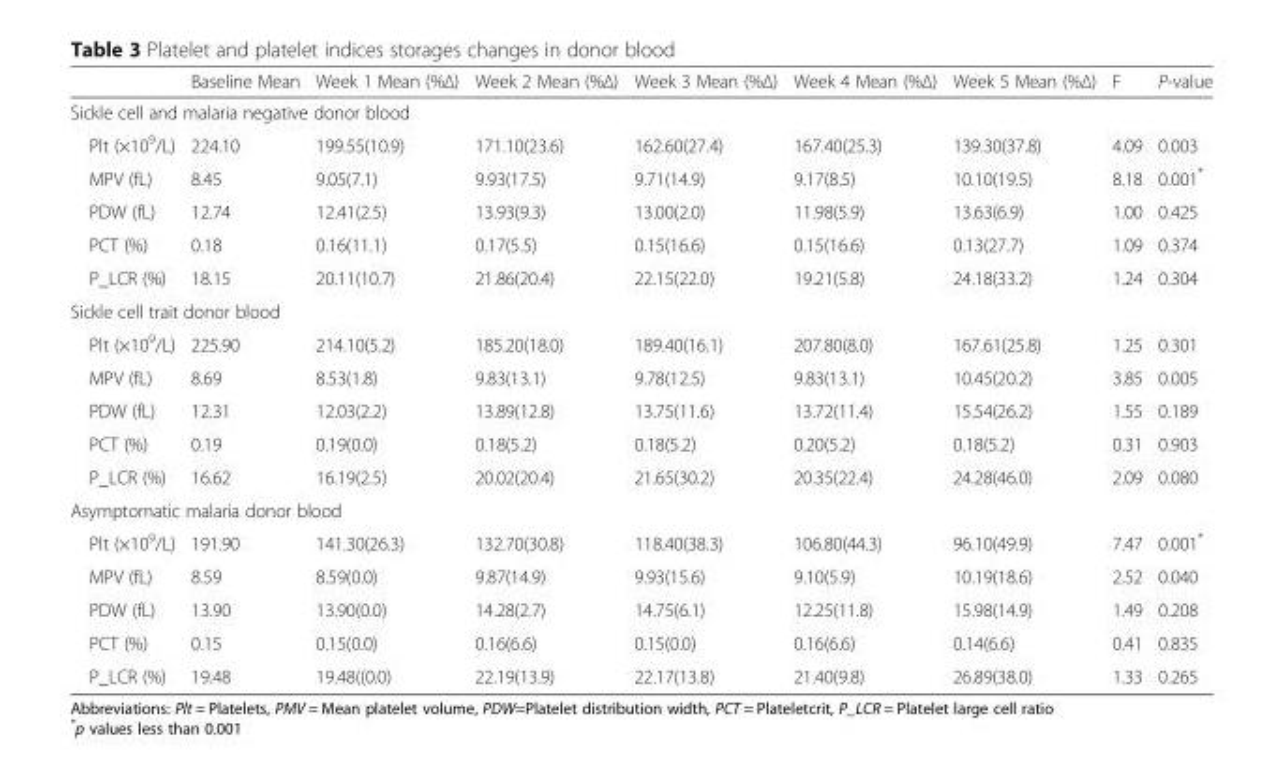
<table><thead><tr><td></td><td>Baseline Mean</td><td>Week 1 Mean (%Δ)</td><td>Week 2 Mean (%Δ)</td><td>Week 3 Mean (%Δ)</td><td>Week 4 Mean (%Δ)</td><td>Week 5 Mean (%Δ)</td><td>F</td><td>P-value</td></tr></thead><tbody><tr><td colspan="9">Sickle cell and malaria negative donor blood</td></tr><tr><td>Plt (×10<sup>9</sup>/L)</td><td>224.10</td><td>199.55(10.9)</td><td>171.10(23.6)</td><td>162.60(27.4)</td><td>167.40(25.3)</td><td>139.30(37.8)</td><td>4.09</td><td>0.003</td></tr><tr><td>MPV (fL)</td><td>8.45</td><td>9.05(7.1)</td><td>9.93(17.5)</td><td>9.71(14.9)</td><td>9.17(8.5)</td><td>10.10(19.5)</td><td>8.18</td><td>0.001*</td></tr><tr><td>PDW (fL)</td><td>12.74</td><td>12.41(2.5)</td><td>13.93(9.3)</td><td>13.00(2.0)</td><td>11.98(5.9)</td><td>13.63(6.9)</td><td>1.00</td><td>0.425</td></tr><tr><td>PCT (%)</td><td>0.18</td><td>0.16(11.1)</td><td>0.17(5.5)</td><td>0.15(16.6)</td><td>0.15(16.6)</td><td>0.13(27.7)</td><td>1.09</td><td>0.374</td></tr><tr><td>P_LCR (%)</td><td>18.15</td><td>20.11(10.7)</td><td>21.86(20.4)</td><td>22.15(22.0)</td><td>19.21(5.8)</td><td>24.18(33.2)</td><td>1.24</td><td>0.304</td></tr><tr><td colspan="9">Sickle cell trait donor blood</td></tr><tr><td>Plt (×10<sup>9</sup>/L)</td><td>225.90</td><td>214.10(5.2)</td><td>185.20(18.0)</td><td>189.40(16.1)</td><td>207.80(8.0)</td><td>167.61(25.8)</td><td>1.25</td><td>0.301</td></tr><tr><td>MPV (fL)</td><td>8.69</td><td>8.53(1.8)</td><td>9.83(13.1)</td><td>9.78(12.5)</td><td>9.83(13.1)</td><td>10.45(20.2)</td><td>3.85</td><td>0.005</td></tr><tr><td>PDW (fL)</td><td>12.31</td><td>12.03(2.2)</td><td>13.89(12.8)</td><td>13.75(11.6)</td><td>13.72(11.4)</td><td>15.54(26.2)</td><td>1.55</td><td>0.189</td></tr><tr><td>PCT (%)</td><td>0.19</td><td>0.19(0.0)</td><td>0.18(5.2)</td><td>0.18(5.2)</td><td>0.20(5.2)</td><td>0.18(5.2)</td><td>0.31</td><td>0.903</td></tr><tr><td>P_LCR (%)</td><td>16.62</td><td>16.19(2.5)</td><td>20.02(20.4)</td><td>21.65(30.2)</td><td>20.35(22.4)</td><td>24.28(46.0)</td><td>2.09</td><td>0.080</td></tr><tr><td colspan="9">Asymptomatic malaria donor blood</td></tr><tr><td>Plt (×10<sup>9</sup>/L)</td><td>191.90</td><td>141.30(26.3)</td><td>132.70(30.8)</td><td>118.40(38.3)</td><td>106.80(44.3)</td><td>96.10(49.9)</td><td>7.47</td><td>0.001*</td></tr><tr><td>MPV (fL)</td><td>8.59</td><td>8.59(0.0)</td><td>9.87(14.9)</td><td>9.93(15.6)</td><td>9.10(5.9)</td><td>10.19(18.6)</td><td>2.52</td><td>0.040</td></tr><tr><td>PDW (fL)</td><td>13.90</td><td>13.90(0.0)</td><td>14.28(2.7)</td><td>14.75(6.1)</td><td>12.25(11.8)</td><td>15.98(14.9)</td><td>1.49</td><td>0.208</td></tr><tr><td>PCT (%)</td><td>0.15</td><td>0.15(0.0)</td><td>0.16(6.6)</td><td>0.15(0.0)</td><td>0.16(6.6)</td><td>0.14(6.6)</td><td>0.41</td><td>0.835</td></tr><tr><td>P_LCR (%)</td><td>19.48</td><td>19.48((0.0)</td><td>22.19(13.9)</td><td>22.17(13.8)</td><td>21.40(9.8)</td><td>26.89(38.0)</td><td>1.33</td><td>0.265</td></tr></tbody></table>